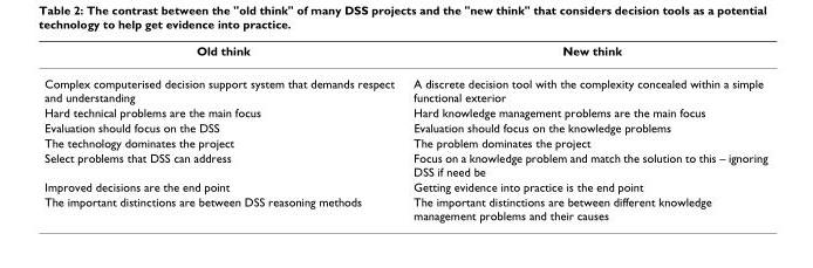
<table><thead><tr><td>Old think</td><td>New think</td></tr></thead><tbody><tr><td>Complex computerised decision support system that demands respect and understanding</td><td>A discrete decision tool with the complexity concealed within a simple functional exterior</td></tr><tr><td>Hard technical problems are the main focus</td><td>Hard knowledge management problems are the main focus</td></tr><tr><td>Evaluation should focus on the DSS</td><td>Evaluation should focus on the knowledge problems</td></tr><tr><td>The technology dominates the project</td><td>The problem dominates the project</td></tr><tr><td>Select problems that DSS can address</td><td>Focus on a knowledge problem and match the solution to this – ignoring DSS if need be</td></tr><tr><td>Improved decisions are the end point</td><td>Getting evidence into practice is the end point</td></tr><tr><td>The important distinctions are between DSS reasoning methods</td><td>The important distinctions are between different knowledge management problems and their causes</td></tr></tbody></table>